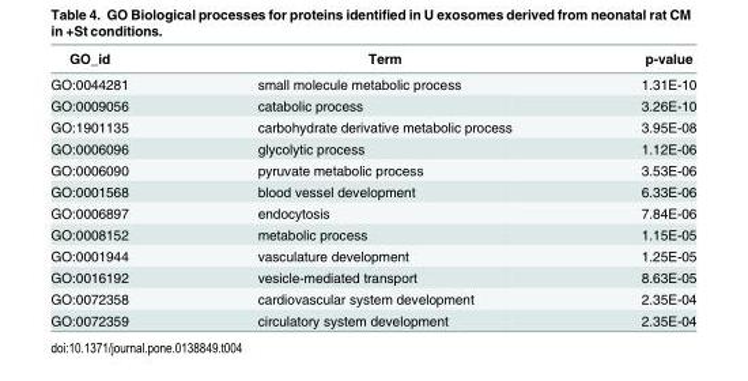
<table><thead><tr><td>GO_id</td><td>Term</td><td>p-value</td></tr></thead><tbody><tr><td>GO:0044281</td><td>small molecule metabolic process</td><td>1.31E-10</td></tr><tr><td>GO:0009056</td><td>catabolic process</td><td>3.26E-10</td></tr><tr><td>GO:1901135</td><td>carbohydrate derivative metabolic process</td><td>3.95E-08</td></tr><tr><td>GO:0006096</td><td>glycolytic process</td><td>1.12E-06</td></tr><tr><td>GO:0006090</td><td>pyruvate metabolic process</td><td>3.53E-06</td></tr><tr><td>GO:0001568</td><td>blood vessel development</td><td>6.33E-06</td></tr><tr><td>GO:0006897</td><td>endocytosis</td><td>7.84E-06</td></tr><tr><td>GO:0008152</td><td>metabolic process</td><td>1.15E-05</td></tr><tr><td>GO:0001944</td><td>vasculature development</td><td>1.25E-05</td></tr><tr><td>GO:0016192</td><td>vesicle-mediated transport</td><td>8.63E-05</td></tr><tr><td>GO:0072358</td><td>cardiovascular system development</td><td>2.35E-04</td></tr><tr><td>GO:0072359</td><td>circulatory system development</td><td>2.35E-04</td></tr></tbody></table>